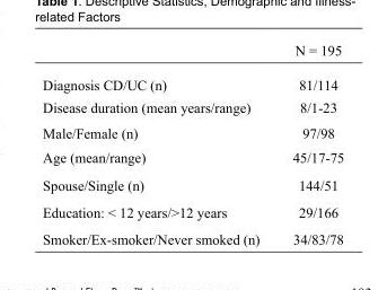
<table><thead><tr><td></td><td>N = 195</td></tr></thead><tbody><tr><td>Diagnosis CD/UC (n)</td><td>81/114</td></tr><tr><td>Disease duration (mean years/range)</td><td>8/1-23</td></tr><tr><td>Male/Female (n)</td><td>97/98</td></tr><tr><td>Age (mean/range)</td><td>45/17-75</td></tr><tr><td>Spouse/Single (n)</td><td>144/51</td></tr><tr><td>Education: &lt; 12 years/&gt;12 years</td><td>29/166</td></tr><tr><td>Smoker/Ex-smoker/Never smoked (n)</td><td>34/83/78</td></tr></tbody></table>